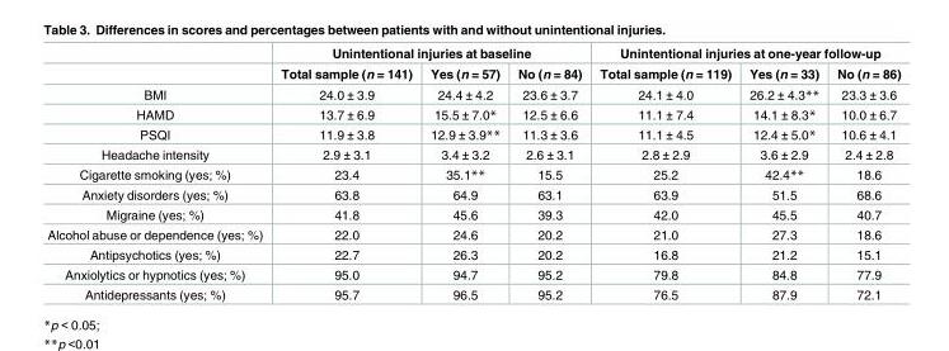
<table><thead><tr><td rowspan="2"></td><td colspan="3">Unintentional injuries at baseline</td><td colspan="3">Unintentional injuries at one-year follow-up</td></tr><tr><td>Total sample (n = 141)</td><td>Yes (n = 57)</td><td>No (n = 84)</td><td>Total sample (n = 119)</td><td>Yes (n = 33)</td><td>No (n = 86)</td></tr></thead><tbody><tr><td>BMI</td><td>24.0 ± 3.9</td><td>24.4 ± 4.2</td><td>23.6 ± 3.7</td><td>24.1 ± 4.0</td><td>26.2 ± 4.3**</td><td>23.3 ± 3.6</td></tr><tr><td>HAMD</td><td>13.7 ± 6.9</td><td>15.5 ± 7.0*</td><td>12.5 ± 6.6</td><td>11.1 ± 7.4</td><td>14.1 ± 8.3*</td><td>10.0 ± 6.7</td></tr><tr><td>PSQI</td><td>11.9 ± 3.8</td><td>12.9 ± 3.9**</td><td>11.3 ± 3.6</td><td>11.1 ± 4.5</td><td>12.4 ± 5.0*</td><td>10.6 ± 4.1</td></tr><tr><td>Headache intensity</td><td>2.9 ± 3.1</td><td>3.4 ± 3.2</td><td>2.6 ± 3.1</td><td>2.8 ± 2.9</td><td>3.6 ± 2.9</td><td>2.4 ± 2.8</td></tr><tr><td>Cigarette smoking (yes; %)</td><td>23.4</td><td>35.1**</td><td>15.5</td><td>25.2</td><td>42.4**</td><td>18.6</td></tr><tr><td>Anxiety disorders (yes; %)</td><td>63.8</td><td>64.9</td><td>63.1</td><td>63.9</td><td>51.5</td><td>68.6</td></tr><tr><td>Migraine (yes; %)</td><td>41.8</td><td>45.6</td><td>39.3</td><td>42.0</td><td>45.5</td><td>40.7</td></tr><tr><td>Alcohol abuse or dependence (yes; %)</td><td>22.0</td><td>24.6</td><td>20.2</td><td>21.0</td><td>27.3</td><td>18.6</td></tr><tr><td>Antipsychotics (yes; %)</td><td>22.7</td><td>26.3</td><td>20.2</td><td>16.8</td><td>21.2</td><td>15.1</td></tr><tr><td>Anxiolytics or hypnotics (yes; %)</td><td>95.0</td><td>94.7</td><td>95.2</td><td>79.8</td><td>84.8</td><td>77.9</td></tr><tr><td>Antidepressants (yes; %)</td><td>95.7</td><td>96.5</td><td>95.2</td><td>76.5</td><td>87.9</td><td>72.1</td></tr></tbody></table>